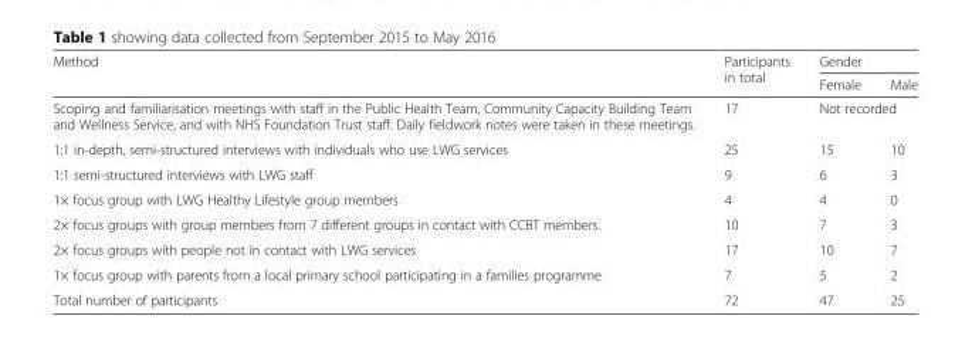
<table><thead><tr><td rowspan="2">Method</td><td rowspan="2">Participants in total</td><td colspan="2">Gender</td></tr><tr><td>Female</td><td>Male</td></tr></thead><tbody><tr><td>Scoping and familiarisation meetings with staff in the Public Health Team, Community Capacity Building Team and Wellness Service, and with NHS Foundation Trust staff. Daily fieldwork notes were taken in these meetings.</td><td>17</td><td colspan="2">Not recorded</td></tr><tr><td>1:1 in-depth, semi-structured interviews with individuals who use LWG services</td><td>25</td><td>15</td><td>10</td></tr><tr><td>1:1 semi-structured interviews with LWG staff</td><td>9</td><td>6</td><td>3</td></tr><tr><td>1× focus group with LWG Healthy Lifestyle group members</td><td>4</td><td>4</td><td>0</td></tr><tr><td>2× focus groups with group members from 7 different groups in contact with CCBT members.</td><td>10</td><td>7</td><td>3</td></tr><tr><td>2× focus groups with people not in contact with LWG services</td><td>17</td><td>10</td><td>7</td></tr><tr><td>1× focus group with parents from a local primary school participating in a families programme</td><td>7</td><td>5</td><td>2</td></tr><tr><td>Total number of participants</td><td>72</td><td>47</td><td>25</td></tr></tbody></table>